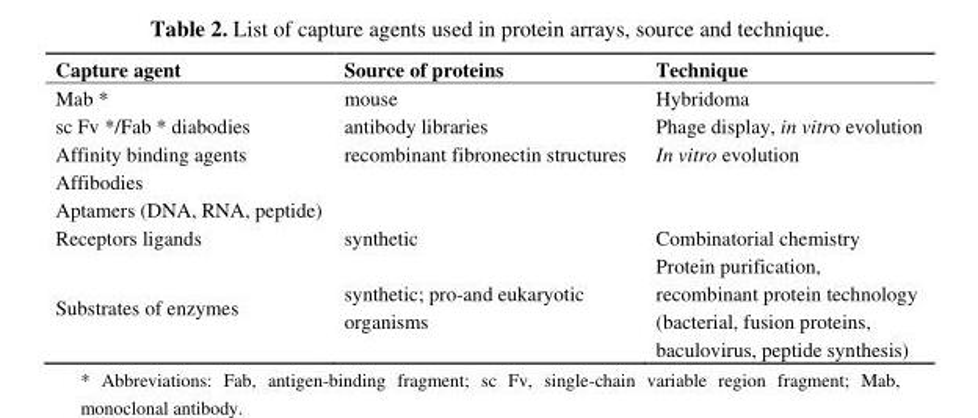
<table><thead><tr><td>Capture agent</td><td>Source of proteins</td><td>Technique</td></tr></thead><tbody><tr><td>Mab *</td><td>mouse</td><td>Hybridoma</td></tr><tr><td>sc Fv */Fab * diabodies</td><td>antibody libraries</td><td>Phage display, in vitro evolution</td></tr><tr><td>Affinity binding agents</td><td>recombinant fibronectin structures</td><td>In vitro evolution</td></tr><tr><td colspan="3">Affibodies</td></tr><tr><td colspan="3">Aptamers (DNA, RNA, peptide)</td></tr><tr><td>Receptors ligands</td><td>synthetic</td><td>Combinatorial chemistry</td></tr><tr><td>Substrates of enzymes</td><td>synthetic; pro-and eukaryotic organisms</td><td>Protein purification, recombinant protein technology (bacterial, fusion proteins, baculovirus, peptide synthesis)</td></tr></tbody></table>